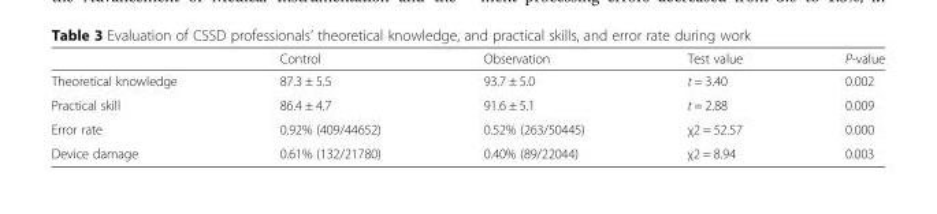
<table><thead><tr><td></td><td>Control</td><td>Observation</td><td>Test value</td><td>P-value</td></tr></thead><tbody><tr><td>Theoretical knowledge</td><td>87.3 ± 5.5</td><td>93.7 ± 5.0</td><td>t = 3.40</td><td>0.002</td></tr><tr><td>Practical skill</td><td>86.4 ± 4.7</td><td>91.6 ± 5.1</td><td>t = 2.88</td><td>0.009</td></tr><tr><td>Error rate</td><td>0.92% (409/44652)</td><td>0.52% (263/50445)</td><td>χ2 = 52.57</td><td>0.000</td></tr><tr><td>Device damage</td><td>0.61% (132/21780)</td><td>0.40% (89/22044)</td><td>χ2 = 8.94</td><td>0.003</td></tr></tbody></table>